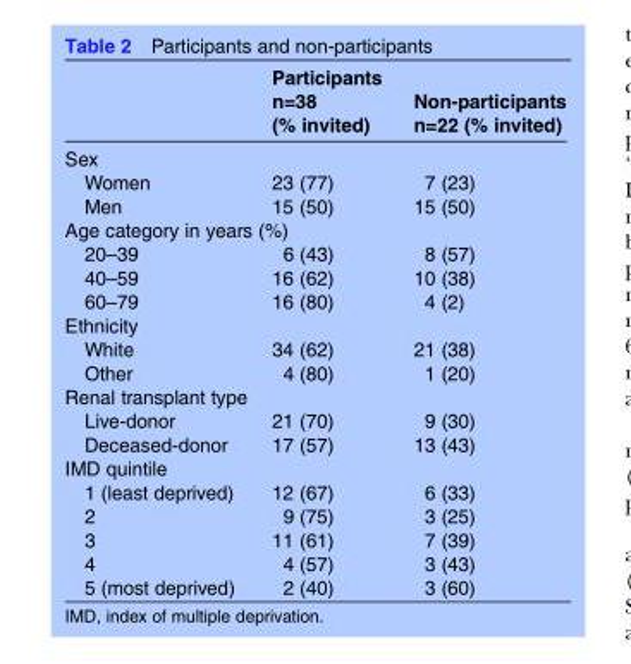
<table><thead><tr><td></td><td>Participants n=38 (% invited)</td><td>Non-participants n=22 (% invited)</td></tr></thead><tbody><tr><td colspan="3">Sex</td></tr><tr><td>Women</td><td>23 (77)</td><td>7 (23)</td></tr><tr><td>Men</td><td>15 (50)</td><td>15 (50)</td></tr><tr><td colspan="3">Age category in years (%)</td></tr><tr><td>20–39</td><td>6 (43)</td><td>8 (57)</td></tr><tr><td>40–59</td><td>16 (62)</td><td>10 (38)</td></tr><tr><td>60–79</td><td>16 (80)</td><td>4 (2)</td></tr><tr><td colspan="3">Ethnicity</td></tr><tr><td>White</td><td>34 (62)</td><td>21 (38)</td></tr><tr><td>Other</td><td>4 (80)</td><td>1 (20)</td></tr><tr><td colspan="3">Renal transplant type</td></tr><tr><td>Live-donor</td><td>21 (70)</td><td>9 (30)</td></tr><tr><td>Deceased-donor</td><td>17 (57)</td><td>13 (43)</td></tr><tr><td colspan="3">IMD quintile</td></tr><tr><td>1 (least deprived)</td><td>12 (67)</td><td>6 (33)</td></tr><tr><td>2</td><td>9 (75)</td><td>3 (25)</td></tr><tr><td>3</td><td>11 (61)</td><td>7 (39)</td></tr><tr><td>4</td><td>4 (57)</td><td>3 (43)</td></tr><tr><td>5 (most deprived)</td><td>2 (40)</td><td>3 (60)</td></tr></tbody></table>